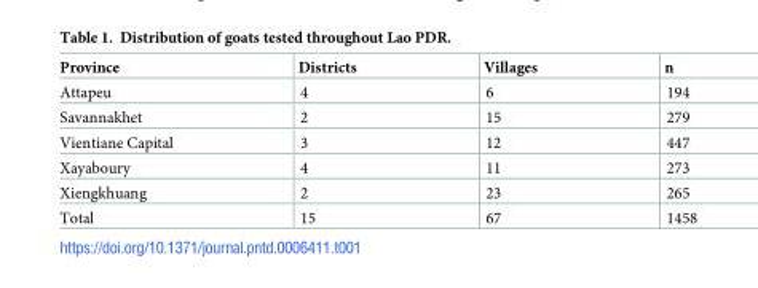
<table><thead><tr><td>Province</td><td>Districts</td><td>Villages</td><td>n</td></tr></thead><tbody><tr><td>Attapeu</td><td>4</td><td>6</td><td>194</td></tr><tr><td>Savannakhet</td><td>2</td><td>15</td><td>279</td></tr><tr><td>Vientiane Capital</td><td>3</td><td>12</td><td>447</td></tr><tr><td>Xayaboury</td><td>4</td><td>11</td><td>273</td></tr><tr><td>Xiengkhuang</td><td>2</td><td>23</td><td>265</td></tr><tr><td>Total</td><td>15</td><td>67</td><td>1458</td></tr></tbody></table>